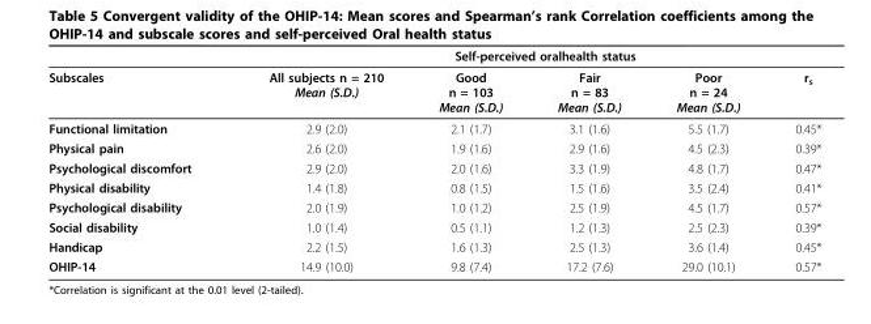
<table><thead><tr><td rowspan="2">Subscales</td><td colspan="5">Self-perceived oralhealth status</td></tr><tr><td>All subjects n = 210 Mean (S.D.)</td><td>Good n = 103 Mean (S.D.)</td><td>Fair n = 83 Mean (S.D.)</td><td>Poor n = 24 Mean (S.D.)</td><td>r<sub>s</sub></td></tr></thead><tbody><tr><td>Functional limitation</td><td>2.9 (2.0)</td><td>2.1 (1.7)</td><td>3.1 (1.6)</td><td>5.5 (1.7)</td><td>0.45*</td></tr><tr><td>Physical pain</td><td>2.6 (2.0)</td><td>1.9 (1.6)</td><td>2.9 (1.6)</td><td>4.5 (2.3)</td><td>0.39*</td></tr><tr><td>Psychological discomfort</td><td>2.9 (2.0)</td><td>2.0 (1.6)</td><td>3.3 (1.9)</td><td>4.8 (1.7)</td><td>0.47*</td></tr><tr><td>Physical disability</td><td>1.4 (1.8)</td><td>0.8 (1.5)</td><td>1.5 (1.6)</td><td>3.5 (2.4)</td><td>0.41*</td></tr><tr><td>Psychological disability</td><td>2.0 (1.9)</td><td>1.0 (1.2)</td><td>2.5 (1.9)</td><td>4.5 (1.7)</td><td>0.57*</td></tr><tr><td>Social disability</td><td>1.0 (1.4)</td><td>0.5 (1.1)</td><td>1.2 (1.3)</td><td>2.5 (2.3)</td><td>0.39*</td></tr><tr><td>Handicap</td><td>2.2 (1.5)</td><td>1.6 (1.3)</td><td>2.5 (1.3)</td><td>3.6 (1.4)</td><td>0.45*</td></tr><tr><td>OHIP-14</td><td>14.9 (10.0)</td><td>9.8 (7.4)</td><td>17.2 (7.6)</td><td>29.0 (10.1)</td><td>0.57*</td></tr></tbody></table>